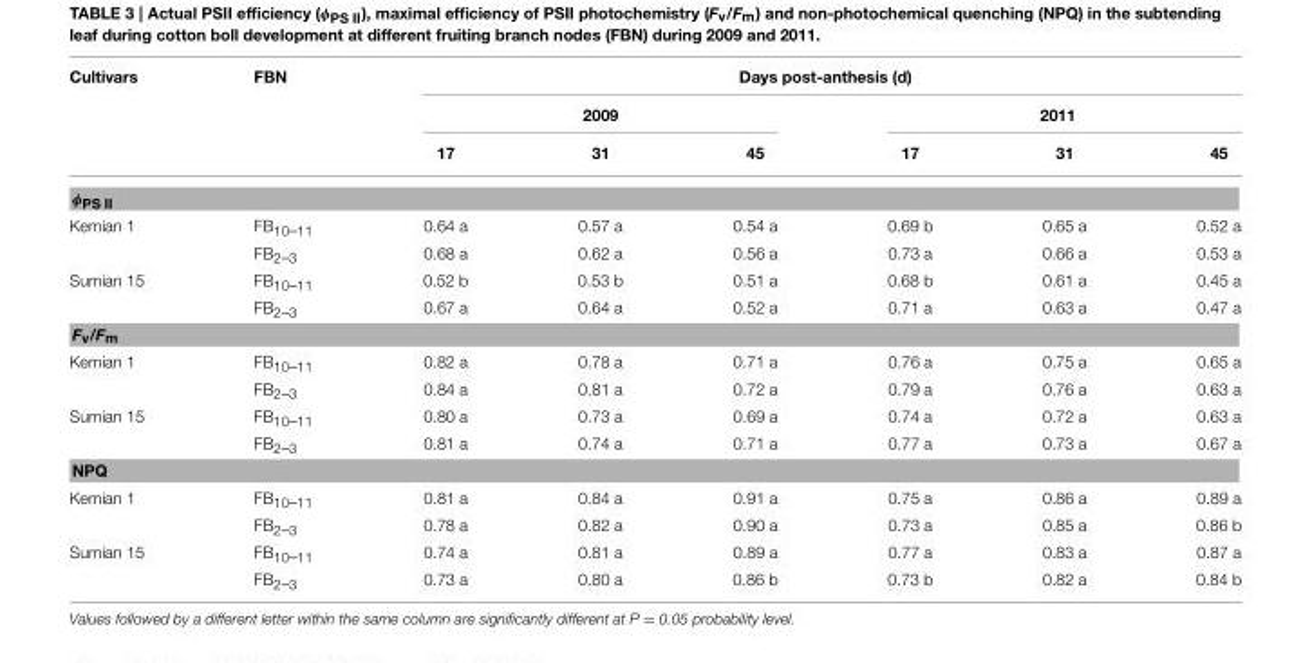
<table><thead><tr><td rowspan="3">Cultivars</td><td rowspan="3">FBN</td><td colspan="6">Days post-anthesis (d)</td></tr><tr><td colspan="3">2009</td><td colspan="3">2011</td></tr><tr><td>17</td><td>31</td><td>45</td><td>17</td><td>31</td><td>45</td></tr></thead><tbody><tr><td colspan="8">φ<sub>PS II</sub></td></tr><tr><td rowspan="2">Kemian 1</td><td>FB<sub>10–11</sub></td><td>0.64 a</td><td>0.57 a</td><td>0.54 a</td><td>0.69 b</td><td>0.65 a</td><td>0.52 a</td></tr><tr><td>FB<sub>2–3</sub></td><td>0.68 a</td><td>0.62 a</td><td>0.56 a</td><td>0.73 a</td><td>0.66 a</td><td>0.53 a</td></tr><tr><td rowspan="2">Sumian 15</td><td>FB<sub>10–11</sub></td><td>0.52 b</td><td>0.53 b</td><td>0.51 a</td><td>0.68 b</td><td>0.61 a</td><td>0.45 a</td></tr><tr><td>FB<sub>2–3</sub></td><td>0.67 a</td><td>0.64 a</td><td>0.52 a</td><td>0.71 a</td><td>0.63 a</td><td>0.47 a</td></tr><tr><td colspan="8">F<sub>v</sub>/F<sub>m</sub></td></tr><tr><td rowspan="2">Kemian 1</td><td>FB<sub>10–11</sub></td><td>0.82 a</td><td>0.78 a</td><td>0.71 a</td><td>0.76 a</td><td>0.75 a</td><td>0.65 a</td></tr><tr><td>FB<sub>2–3</sub></td><td>0.84 a</td><td>0.81 a</td><td>0.72 a</td><td>0.79 a</td><td>0.76 a</td><td>0.63 a</td></tr><tr><td rowspan="2">Sumian 15</td><td>FB<sub>10–11</sub></td><td>0.80 a</td><td>0.73 a</td><td>0.69 a</td><td>0.74 a</td><td>0.72 a</td><td>0.63 a</td></tr><tr><td>FB<sub>2–3</sub></td><td>0.81 a</td><td>0.74 a</td><td>0.71 a</td><td>0.77 a</td><td>0.73 a</td><td>0.67 a</td></tr><tr><td colspan="8">NPQ</td></tr><tr><td rowspan="2">Kemian 1</td><td>FB<sub>10–11</sub></td><td>0.81 a</td><td>0.84 a</td><td>0.91 a</td><td>0.75 a</td><td>0.86 a</td><td>0.89 a</td></tr><tr><td>FB<sub>2–3</sub></td><td>0.78 a</td><td>0.82 a</td><td>0.90 a</td><td>0.73 a</td><td>0.85 a</td><td>0.86 b</td></tr><tr><td rowspan="2">Sumian 15</td><td>FB<sub>10–11</sub></td><td>0.74 a</td><td>0.81 a</td><td>0.89 a</td><td>0.77 a</td><td>0.83 a</td><td>0.87 a</td></tr><tr><td>FB<sub>2–3</sub></td><td>0.73 a</td><td>0.80 a</td><td>0.86 b</td><td>0.73 b</td><td>0.82 a</td><td>0.84 b</td></tr></tbody></table>